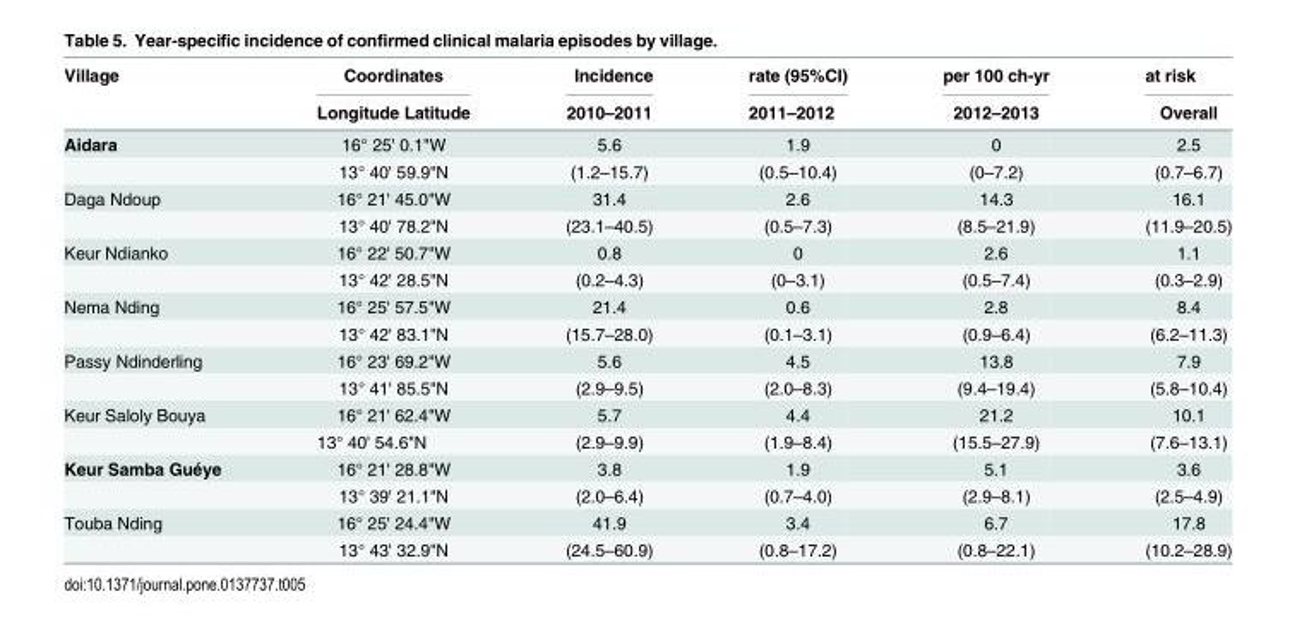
<table><thead><tr><td rowspan="2">Village</td><td rowspan="2">Coordinates Longitude Latitude</td><td rowspan="2">Incidence 2010–2011</td><td rowspan="2">rate (95%CI) 2011–2012</td><td rowspan="2">per 100 ch-yr 2012–2013</td><td rowspan="2">at risk Overall</td></tr><tr></tr></thead><tbody><tr><td rowspan="2">Aidara</td><td>16° 25&#x27; 0.1&quot;W</td><td>5.6</td><td>1.9</td><td>0</td><td>2.5</td></tr><tr><td>13° 40&#x27; 59.9&quot;N</td><td>(1.2–15.7)</td><td>(0.5–10.4)</td><td>(0–7.2)</td><td>(0.7–6.7)</td></tr><tr><td rowspan="2">Daga Ndoup</td><td>16° 21&#x27; 45.0&quot;W</td><td>31.4</td><td>2.6</td><td>14.3</td><td>16.1</td></tr><tr><td>13° 40&#x27; 78.2&quot;N</td><td>(23.1–40.5)</td><td>(0.5–7.3)</td><td>(8.5–21.9)</td><td>(11.9–20.5)</td></tr><tr><td rowspan="2">Keur Ndianko</td><td>16° 22&#x27; 50.7&quot;W</td><td>0.8</td><td>0</td><td>2.6</td><td>1.1</td></tr><tr><td>13° 42&#x27; 28.5&quot;N</td><td>(0.2–4.3)</td><td>(0–3.1)</td><td>(0.5–7.4)</td><td>(0.3–2.9)</td></tr><tr><td rowspan="2">Nema Nding</td><td>16° 25&#x27; 57.5&quot;W</td><td>21.4</td><td>0.6</td><td>2.8</td><td>8.4</td></tr><tr><td>13° 42&#x27; 83.1&quot;N</td><td>(15.7–28.0)</td><td>(0.1–3.1)</td><td>(0.9–6.4)</td><td>(6.2–11.3)</td></tr><tr><td rowspan="2">Passy Ndinderling</td><td>16° 23&#x27; 69.2&quot;W</td><td>5.6</td><td>4.5</td><td>13.8</td><td>7.9</td></tr><tr><td>13° 41&#x27; 85.5&quot;N</td><td>(2.9–9.5)</td><td>(2.0–8.3)</td><td>(9.4–19.4)</td><td>(5.8–10.4)</td></tr><tr><td rowspan="2">Keur Saloly Bouya</td><td>16° 21&#x27; 62.4&quot;W</td><td>5.7</td><td>4.4</td><td>21.2</td><td>10.1</td></tr><tr><td>13° 40&#x27; 54.6&quot;N</td><td>(2.9–9.9)</td><td>(1.9–8.4)</td><td>(15.5–27.9)</td><td>(7.6–13.1)</td></tr><tr><td rowspan="2">Keur Samba Guéye</td><td>16° 21&#x27; 28.8&quot;W</td><td>3.8</td><td>1.9</td><td>5.1</td><td>3.6</td></tr><tr><td>13° 39&#x27; 21.1&quot;N</td><td>(2.0–6.4)</td><td>(0.7–4.0)</td><td>(2.9–8.1)</td><td>(2.5–4.9)</td></tr><tr><td rowspan="2">Touba Nding</td><td>16° 25&#x27; 24.4&quot;W</td><td>41.9</td><td>3.4</td><td>6.7</td><td>17.8</td></tr><tr><td>13° 43&#x27; 32.9&quot;N</td><td>(24.5–60.9)</td><td>(0.8–17.2)</td><td>(0.8–22.1)</td><td>(10.2–28.9)</td></tr></tbody></table>